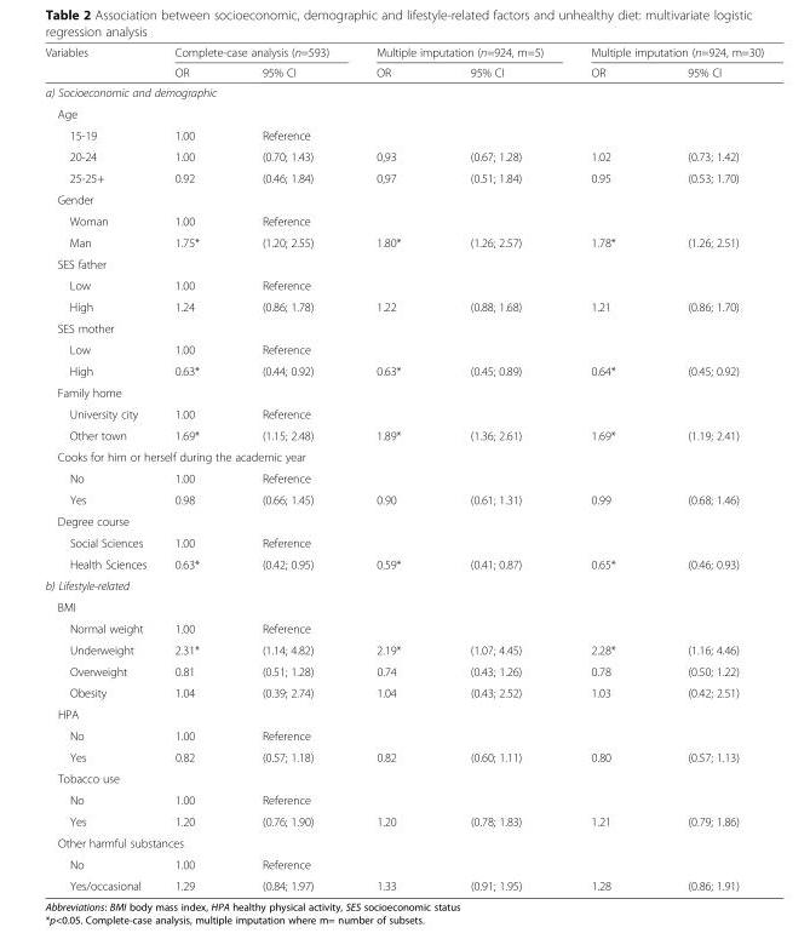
<table><thead><tr><td rowspan="2">Variables</td><td colspan="2">Complete-case analysis (n=593)</td><td colspan="2">Multiple imputation (n=924, m=5)</td><td colspan="2">Multiple imputation (n=924, m=30)</td></tr><tr><td>OR</td><td>95% CI</td><td>OR</td><td>95% CI</td><td>OR</td><td>95% CI</td></tr></thead><tbody><tr><td colspan="7">a) Socioeconomic and demographic</td></tr><tr><td colspan="7">Age</td></tr><tr><td>15-19</td><td>1.00</td><td>Reference</td><td></td><td></td><td></td><td></td></tr><tr><td>20-24</td><td>1.00</td><td>(0.70; 1.43)</td><td>0,93</td><td>(0.67; 1.28)</td><td>1.02</td><td>(0.73; 1.42)</td></tr><tr><td>25-25+</td><td>0.92</td><td>(0.46; 1.84)</td><td>0,97</td><td>(0.51; 1.84)</td><td>0.95</td><td>(0.53; 1.70)</td></tr><tr><td colspan="7">Gender</td></tr><tr><td>Woman</td><td>1.00</td><td>Reference</td><td></td><td></td><td></td><td></td></tr><tr><td>Man</td><td>1.75*</td><td>(1.20; 2.55)</td><td>1.80*</td><td>(1.26; 2.57)</td><td>1.78*</td><td>(1.26; 2.51)</td></tr><tr><td colspan="7">SES father</td></tr><tr><td>Low</td><td>1.00</td><td>Reference</td><td></td><td></td><td></td><td></td></tr><tr><td>High</td><td>1.24</td><td>(0.86; 1.78)</td><td>1.22</td><td>(0.88; 1.68)</td><td>1.21</td><td>(0.86; 1.70)</td></tr><tr><td colspan="7">SES mother</td></tr><tr><td>Low</td><td>1.00</td><td>Reference</td><td></td><td></td><td></td><td></td></tr><tr><td>High</td><td>0.63*</td><td>(0.44; 0.92)</td><td>0.63*</td><td>(0.45; 0.89)</td><td>0.64*</td><td>(0.45; 0.92)</td></tr><tr><td colspan="7">Family home</td></tr><tr><td>University city</td><td>1.00</td><td>Reference</td><td></td><td></td><td></td><td></td></tr><tr><td>Other town</td><td>1.69*</td><td>(1.15; 2.48)</td><td>1.89*</td><td>(1.36; 2.61)</td><td>1.69*</td><td>(1.19; 2.41)</td></tr><tr><td colspan="7">Cooks for him or herself during the academic year</td></tr><tr><td>No</td><td>1.00</td><td>Reference</td><td></td><td></td><td></td><td></td></tr><tr><td>Yes</td><td>0.98</td><td>(0.66; 1.45)</td><td>0.90</td><td>(0.61; 1.31)</td><td>0.99</td><td>(0.68; 1.46)</td></tr><tr><td colspan="7">Degree course</td></tr><tr><td>Social Sciences</td><td>1.00</td><td>Reference</td><td></td><td></td><td></td><td></td></tr><tr><td>Health Sciences</td><td>0.63*</td><td>(0.42; 0.95)</td><td>0.59*</td><td>(0.41; 0.87)</td><td>0.65*</td><td>(0.46; 0.93)</td></tr><tr><td colspan="7">b) Lifestyle-related</td></tr><tr><td colspan="7">BMI</td></tr><tr><td>Normal weight</td><td>1.00</td><td>Reference</td><td></td><td></td><td></td><td></td></tr><tr><td>Underweight</td><td>2.31*</td><td>(1.14; 4.82)</td><td>2.19*</td><td>(1.07; 4.45)</td><td>2.28*</td><td>(1.16; 4.46)</td></tr><tr><td>Overweight</td><td>0.81</td><td>(0.51; 1.28)</td><td>0.74</td><td>(0.43; 1.26)</td><td>0.78</td><td>(0.50; 1.22)</td></tr><tr><td>Obesity</td><td>1.04</td><td>(0.39; 2.74)</td><td>1.04</td><td>(0.43; 2.52)</td><td>1.03</td><td>(0.42; 2.51)</td></tr><tr><td colspan="7">HPA</td></tr><tr><td>No</td><td>1.00</td><td>Reference</td><td></td><td></td><td></td><td></td></tr><tr><td>Yes</td><td>0.82</td><td>(0.57; 1.18)</td><td>0.82</td><td>(0.60; 1.11)</td><td>0.80</td><td>(0.57; 1.13)</td></tr><tr><td colspan="7">Tobacco use</td></tr><tr><td>No</td><td>1.00</td><td>Reference</td><td></td><td></td><td></td><td></td></tr><tr><td>Yes</td><td>1.20</td><td>(0.76; 1.90)</td><td>1.20</td><td>(0.78; 1.83)</td><td>1.21</td><td>(0.79; 1.86)</td></tr><tr><td colspan="7">Other harmful substances</td></tr><tr><td>No</td><td>1.00</td><td>Reference</td><td></td><td></td><td></td><td></td></tr><tr><td>Yes/occasional</td><td>1.29</td><td>(0.84; 1.97)</td><td>1.33</td><td>(0.91; 1.95)</td><td>1.28</td><td>(0.86; 1.91)</td></tr></tbody></table>